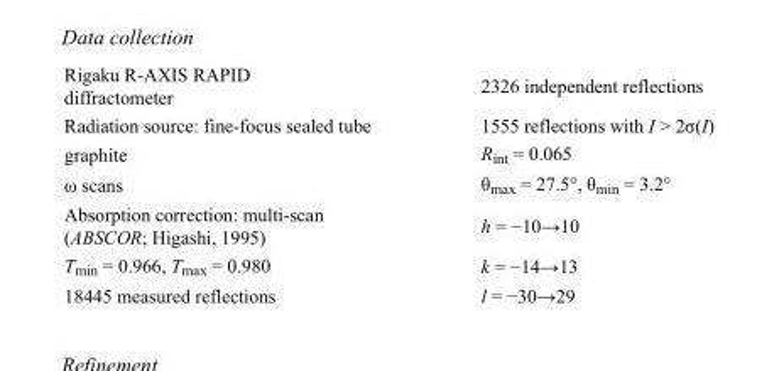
<table><tbody><tr><td>Rigaku R-AXIS RAPID diffractometer</td><td>2326 independent reflections</td></tr><tr><td>Radiation source: fine-focus sealed tube</td><td>1555 reflections with I &gt; 2σ(I)</td></tr><tr><td>graphite</td><td>R<sub>int</sub> = 0.065</td></tr><tr><td>ω scans</td><td>θ<sub>max</sub> = 27.5°, θ<sub>min</sub> = 3.2°</td></tr><tr><td>Absorption correction: multi-scan (ABSCOR; Higashi, 1995)</td><td>h = −10→10</td></tr><tr><td>T<sub>min</sub> = 0.966, T<sub>max</sub> = 0.980</td><td>k = −14→13</td></tr><tr><td>18445 measured reflections</td><td>l = −30→29</td></tr></tbody></table>